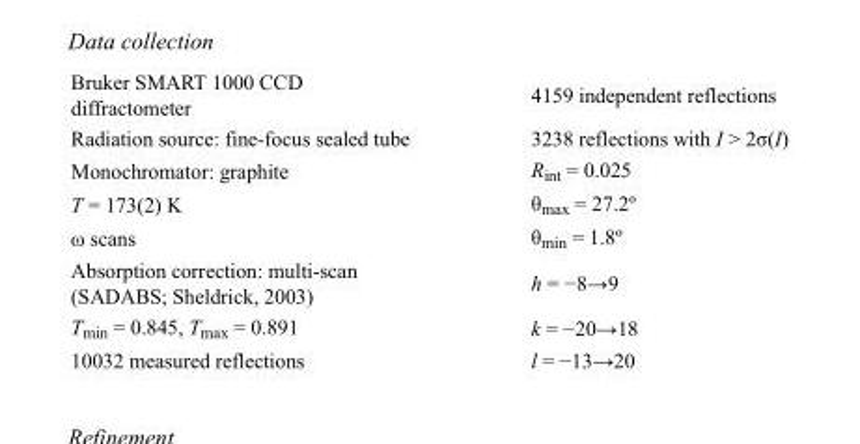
<table><tbody><tr><td>Bruker SMART 1000 CCD diffractometer</td><td>4159 independent reflections</td></tr><tr><td>Radiation source: fine-focus sealed tube</td><td>3238 reflections with I &gt; 2σ(I)</td></tr><tr><td>Monochromator: graphite</td><td>R<sub>int</sub> = 0.025</td></tr><tr><td>T = 173(2) K</td><td>θ<sub>max</sub> = 27.2º</td></tr><tr><td>ω scans</td><td>θ<sub>min</sub> = 1.8º</td></tr><tr><td>Absorption correction: multi-scan (SADABS; Sheldrick, 2003)</td><td>h = −8→9</td></tr><tr><td>T<sub>min</sub> = 0.845, T<sub>max</sub> = 0.891</td><td>k = −20→18</td></tr><tr><td>10032 measured reflections</td><td>l = −13→20</td></tr></tbody></table>